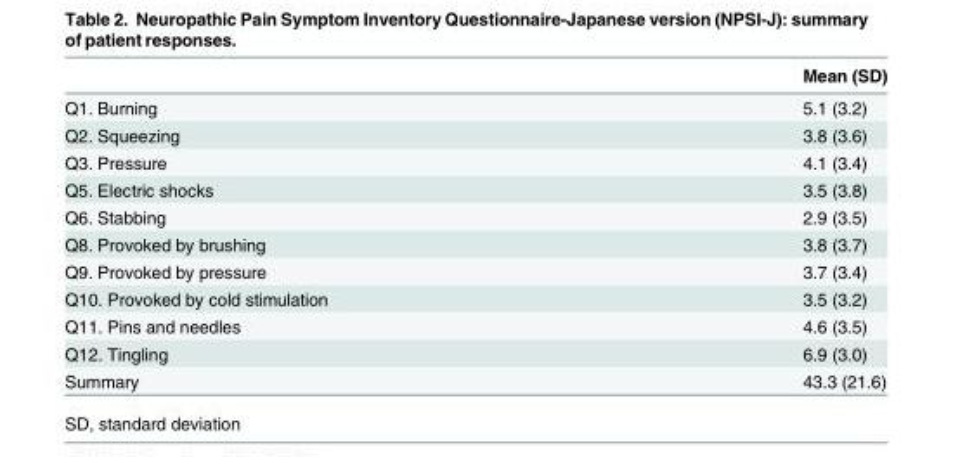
<table><thead><tr><td></td><td>Mean (SD)</td></tr></thead><tbody><tr><td>Q1. Burning</td><td>5.1 (3.2)</td></tr><tr><td>Q2. Squeezing</td><td>3.8 (3.6)</td></tr><tr><td>Q3. Pressure</td><td>4.1 (3.4)</td></tr><tr><td>Q5. Electric shocks</td><td>3.5 (3.8)</td></tr><tr><td>Q6. Stabbing</td><td>2.9 (3.5)</td></tr><tr><td>Q8. Provoked by brushing</td><td>3.8 (3.7)</td></tr><tr><td>Q9. Provoked by pressure</td><td>3.7 (3.4)</td></tr><tr><td>Q10. Provoked by cold stimulation</td><td>3.5 (3.2)</td></tr><tr><td>Q11. Pins and needles</td><td>4.6 (3.5)</td></tr><tr><td>Q12. Tingling</td><td>6.9 (3.0)</td></tr><tr><td>Summary</td><td>43.3 (21.6)</td></tr></tbody></table>